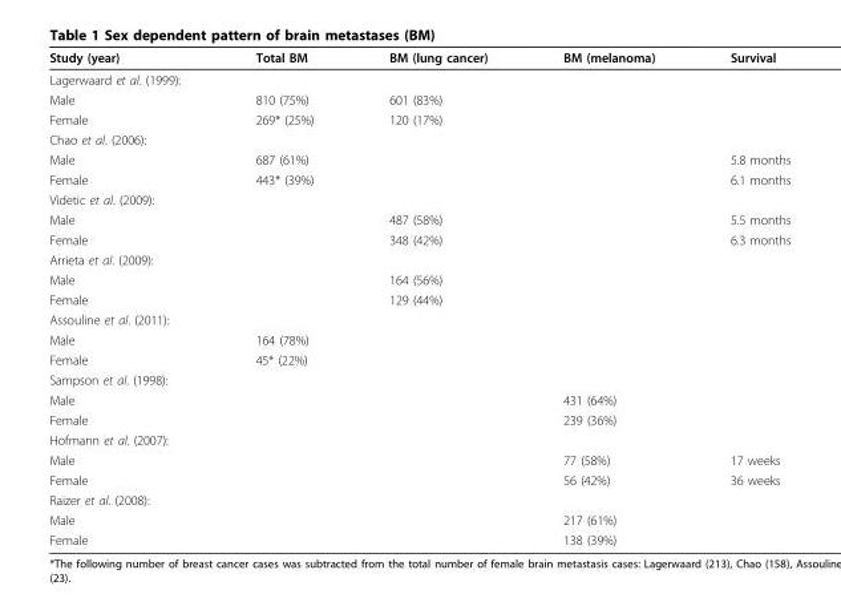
<table><thead><tr><td>Study (year)</td><td>Total BM</td><td>BM (lung cancer)</td><td>BM (melanoma)</td><td>Survival</td></tr></thead><tbody><tr><td colspan="5">Lagerwaard et al. (1999):</td></tr><tr><td>Male</td><td>810 (75%)</td><td>601 (83%)</td><td></td><td></td></tr><tr><td>Female</td><td>269* (25%)</td><td>120 (17%)</td><td></td><td></td></tr><tr><td colspan="5">Chao et al. (2006):</td></tr><tr><td>Male</td><td>687 (61%)</td><td></td><td></td><td>5.8 months</td></tr><tr><td>Female</td><td>443* (39%)</td><td></td><td></td><td>6.1 months</td></tr><tr><td colspan="5">Videtic et al. (2009):</td></tr><tr><td>Male</td><td></td><td>487 (58%)</td><td></td><td>5.5 months</td></tr><tr><td>Female</td><td></td><td>348 (42%)</td><td></td><td>6.3 months</td></tr><tr><td colspan="5">Arrieta et al. (2009):</td></tr><tr><td>Male</td><td></td><td>164 (56%)</td><td></td><td></td></tr><tr><td>Female</td><td></td><td>129 (44%)</td><td></td><td></td></tr><tr><td colspan="5">Assouline et al. (2011):</td></tr><tr><td>Male</td><td>164 (78%)</td><td></td><td></td><td></td></tr><tr><td>Female</td><td>45* (22%)</td><td></td><td></td><td></td></tr><tr><td colspan="5">Sampson et al. (1998):</td></tr><tr><td>Male</td><td></td><td></td><td>431 (64%)</td><td></td></tr><tr><td>Female</td><td></td><td></td><td>239 (36%)</td><td></td></tr><tr><td colspan="5">Hofmann et al. (2007):</td></tr><tr><td>Male</td><td></td><td></td><td>77 (58%)</td><td>17 weeks</td></tr><tr><td>Female</td><td></td><td></td><td>56 (42%)</td><td>36 weeks</td></tr><tr><td colspan="5">Raizer et al. (2008):</td></tr><tr><td>Male</td><td></td><td></td><td>217 (61%)</td><td></td></tr><tr><td>Female</td><td></td><td></td><td>138 (39%)</td><td></td></tr></tbody></table>